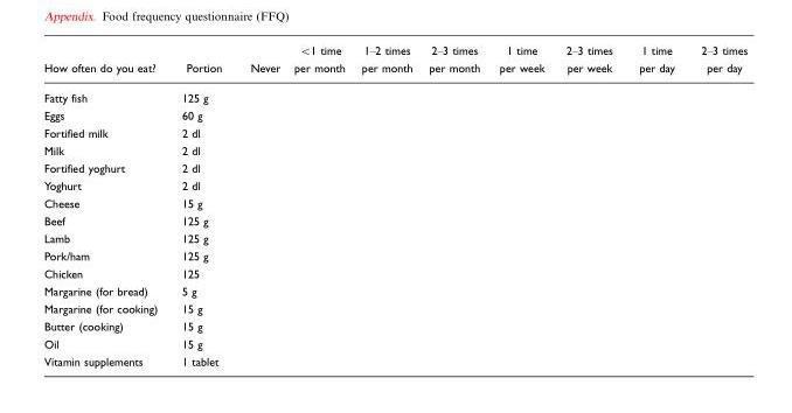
<table><thead><tr><td>How often do you eat?</td><td>Portion</td><td>Never</td><td>&lt;1 time per month</td><td>1–2 times per month</td><td>2–3 times per month</td><td>1 time per week</td><td>2–3 times per week</td><td>1 time per day</td><td>2–3 times per day</td></tr></thead><tbody><tr><td>Fatty fish</td><td>125 g</td><td></td><td></td><td></td><td></td><td></td><td></td><td></td><td></td></tr><tr><td>Eggs</td><td>60 g</td><td></td><td></td><td></td><td></td><td></td><td></td><td></td><td></td></tr><tr><td>Fortified milk</td><td>2 dl</td><td></td><td></td><td></td><td></td><td></td><td></td><td></td><td></td></tr><tr><td>Milk</td><td>2 dl</td><td></td><td></td><td></td><td></td><td></td><td></td><td></td><td></td></tr><tr><td>Fortified yoghurt</td><td>2 dl</td><td></td><td></td><td></td><td></td><td></td><td></td><td></td><td></td></tr><tr><td>Yoghurt</td><td>2 dl</td><td></td><td></td><td></td><td></td><td></td><td></td><td></td><td></td></tr><tr><td>Cheese</td><td>15 g</td><td></td><td></td><td></td><td></td><td></td><td></td><td></td><td></td></tr><tr><td>Beef</td><td>125 g</td><td></td><td></td><td></td><td></td><td></td><td></td><td></td><td></td></tr><tr><td>Lamb</td><td>125 g</td><td></td><td></td><td></td><td></td><td></td><td></td><td></td><td></td></tr><tr><td>Pork/ham</td><td>125 g</td><td></td><td></td><td></td><td></td><td></td><td></td><td></td><td></td></tr><tr><td>Chicken</td><td>125</td><td></td><td></td><td></td><td></td><td></td><td></td><td></td><td></td></tr><tr><td>Margarine (for bread)</td><td>5 g</td><td></td><td></td><td></td><td></td><td></td><td></td><td></td><td></td></tr><tr><td>Margarine (for cooking)</td><td>15 g</td><td></td><td></td><td></td><td></td><td></td><td></td><td></td><td></td></tr><tr><td>Butter (cooking)</td><td>15 g</td><td></td><td></td><td></td><td></td><td></td><td></td><td></td><td></td></tr><tr><td>Oil</td><td>15 g</td><td></td><td></td><td></td><td></td><td></td><td></td><td></td><td></td></tr><tr><td>Vitamin supplements</td><td>1 tablet</td><td></td><td></td><td></td><td></td><td></td><td></td><td></td><td></td></tr></tbody></table>